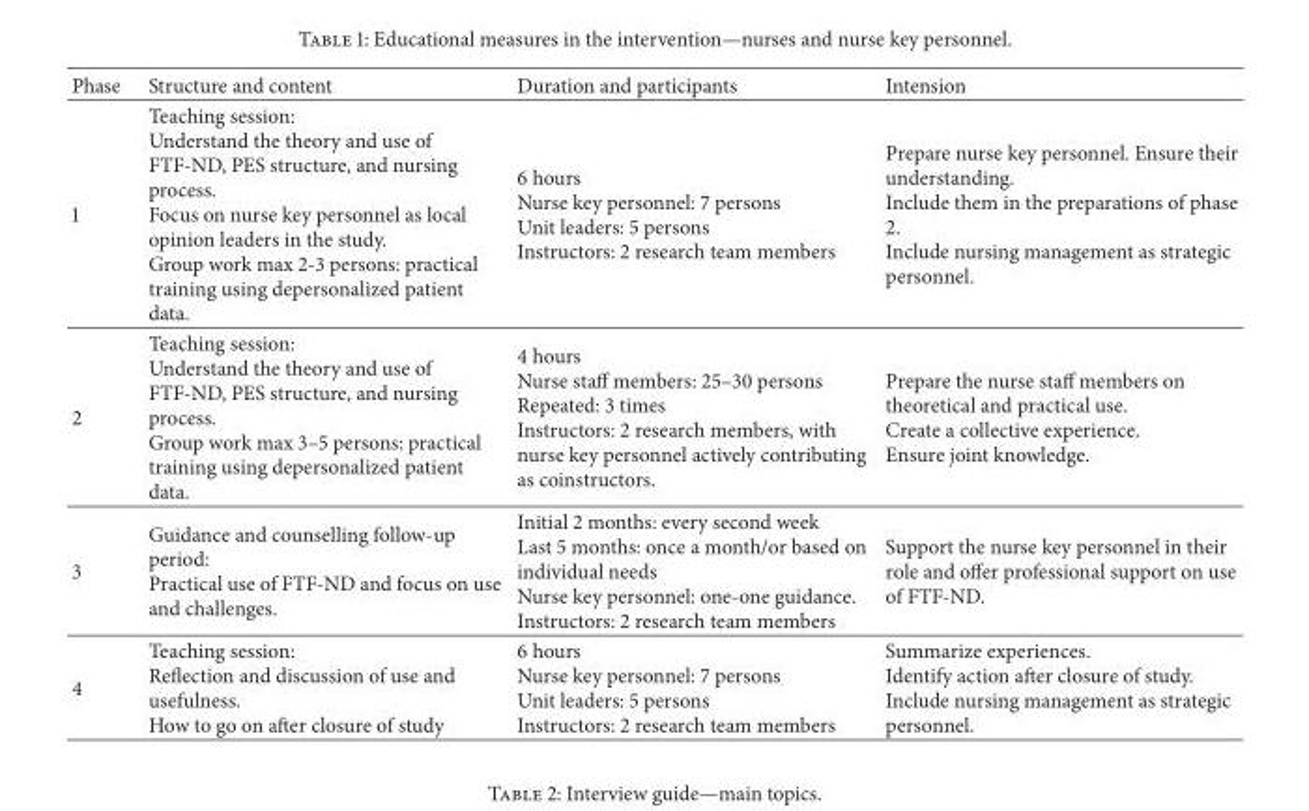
<table><thead><tr><td>Phase</td><td>Structure and content</td><td>Duration and participants</td><td>Intension</td></tr></thead><tbody><tr><td>1</td><td>Teaching session: Understand the theory and use of FTF-ND, PES structure, and nursing process. Focus on nurse key personnel as local opinion leaders in the study. Group work max 2-3 persons: practical training using depersonalized patient data.</td><td>6 hours Nurse key personnel: 7 persons Unit leaders: 5 persons Instructors: 2 research team members</td><td>Prepare nurse key personnel. Ensure their understanding. Include them in the preparations of phase 2. Include nursing management as strategic personnel.</td></tr><tr><td>2</td><td>Teaching session: Understand the theory and use of FTF-ND, PES structure, and nursing process. Group work max 3–5 persons: practical training using depersonalized patient data.</td><td>4 hours Nurse staff members: 25–30 persons Repeated: 3 times Instructors: 2 research members, with nurse key personnel actively contributing as coinstructors.</td><td>Prepare the nurse staff members on theoretical and practical use. Create a collective experience. Ensure joint knowledge.</td></tr><tr><td>3</td><td>Guidance and counselling follow-up period: Practical use of FTF-ND and focus on use and challenges.</td><td>Initial 2 months: every second week Last 5 months: once a month/or based on individual needs Nurse key personnel: one-one guidance. Instructors: 2 research team members</td><td>Support the nurse key personnel in their role and offer professional support on use of FTF-ND.</td></tr><tr><td>4</td><td>Teaching session: Reflection and discussion of use and usefulness. How to go on after closure of study</td><td>6 hours Nurse key personnel: 7 persons Unit leaders: 5 persons Instructors: 2 research team members</td><td>Summarize experiences. Identify action after closure of study. Include nursing management as strategic personnel.</td></tr></tbody></table>